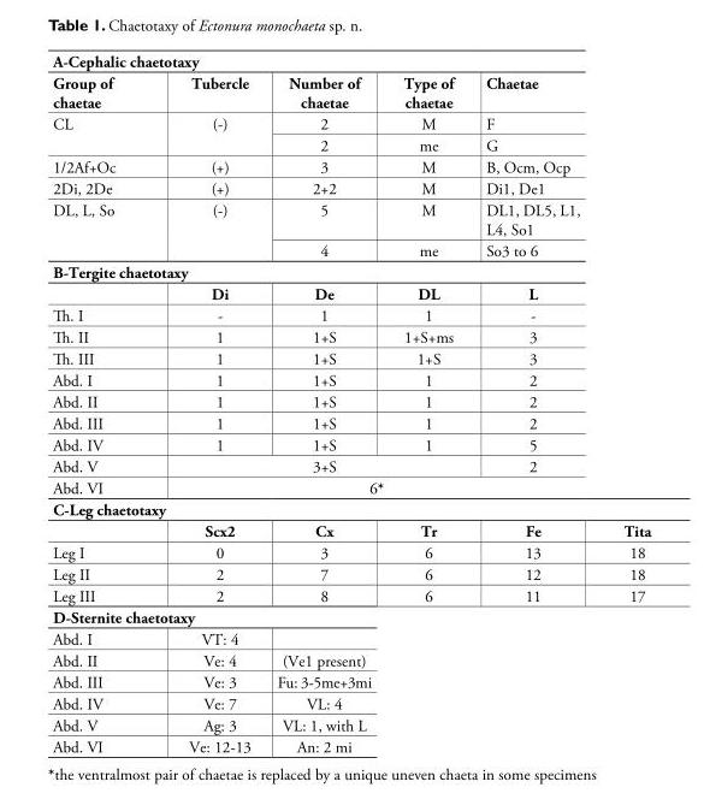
<table><tbody><tr><td colspan="5">A-Cephalic chaetotaxy</td><td rowspan="19"></td></tr><tr><td>Group of chaetae</td><td>Tubercle</td><td>Number of chaetae</td><td>Type of chaetae</td><td>Chaetae</td></tr><tr><td rowspan="2">CL</td><td rowspan="2">(-)</td><td>2</td><td>M</td><td>F</td></tr><tr><td>2</td><td>me</td><td>G</td></tr><tr><td>1/2Af+Oc</td><td>(+)</td><td>3</td><td>M</td><td>B, Ocm, Ocp</td></tr><tr><td>2Di, 2De</td><td>(+)</td><td>2+2</td><td>M</td><td>Di1, De1</td></tr><tr><td rowspan="2">DL, L, So</td><td rowspan="2">(-)</td><td>5</td><td>M</td><td>DL1, DL5, L1, L4, So1</td></tr><tr><td>4</td><td>me</td><td>So3 to 6</td></tr><tr><td colspan="5">B-Tergite chaetotaxy</td></tr><tr><td></td><td>Di</td><td>De</td><td>DL</td><td>L</td></tr><tr><td>Th. I</td><td>-</td><td>1</td><td>1</td><td>-</td></tr><tr><td>Th. II</td><td>1</td><td>1+S</td><td>1+S+ms</td><td>3</td></tr><tr><td>Th. III</td><td>1</td><td>1+S</td><td>1+S</td><td>3</td></tr><tr><td>Abd. I</td><td>1</td><td>1+S</td><td>1</td><td>2</td></tr><tr><td>Abd. II</td><td>1</td><td>1+S</td><td>1</td><td>2</td></tr><tr><td>Abd. III</td><td>1</td><td>1+S</td><td>1</td><td>2</td></tr><tr><td>Abd. IV</td><td>1</td><td>1+S</td><td>1</td><td>5</td></tr><tr><td>Abd. V</td><td colspan="3">3+S</td><td>2</td></tr><tr><td>Abd. VI</td><td colspan="4">6*</td></tr><tr><td colspan="6">C-Leg chaetotaxy</td></tr><tr><td></td><td>Scx2</td><td>Cx</td><td>Tr</td><td>Fe</td><td>Tita</td></tr><tr><td>Leg I</td><td>0</td><td>3</td><td>6</td><td>13</td><td>18</td></tr><tr><td>Leg II</td><td>2</td><td>7</td><td>6</td><td>12</td><td>18</td></tr><tr><td>Leg III</td><td>2</td><td>8</td><td>6</td><td>11</td><td>17</td></tr><tr><td colspan="3">D-Sternite chaetotaxy</td><td rowspan="7" colspan="3"></td></tr><tr><td>Abd. I</td><td>VT: 4</td><td></td></tr><tr><td>Abd. II</td><td>Ve: 4</td><td>(Ve1 present)</td></tr><tr><td>Abd. III</td><td>Ve: 3</td><td>Fu: 3-5me+3mi</td></tr><tr><td>Abd. IV</td><td>Ve: 7</td><td>VL: 4</td></tr><tr><td>Abd. V</td><td>Ag: 3</td><td>VL: 1, with L</td></tr><tr><td>Abd. VI</td><td>Ve: 12-13</td><td>An: 2 mi</td></tr></tbody></table>